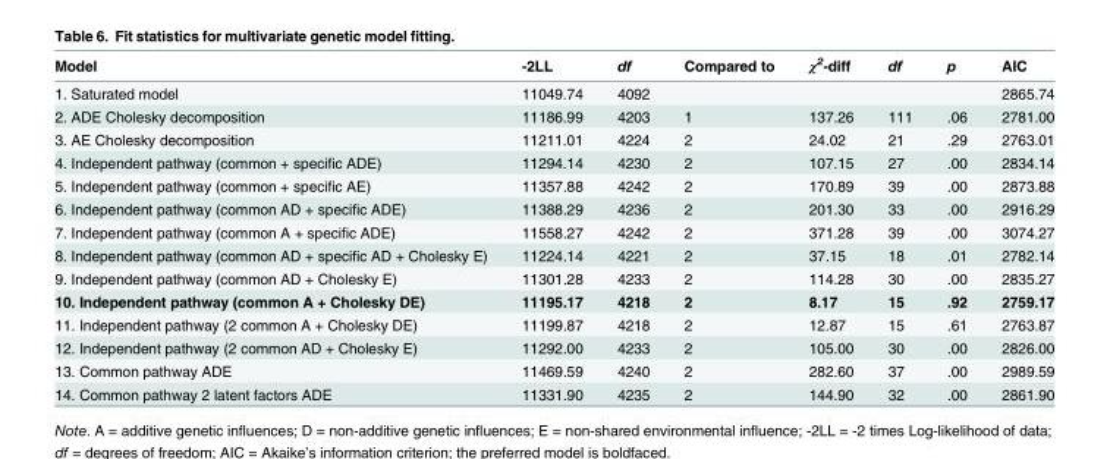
<table><thead><tr><td>Model</td><td>-2LL</td><td>df</td><td>Compared to</td><td>χ<sup>2</sup>-diff</td><td>df</td><td>p</td><td>AIC</td></tr></thead><tbody><tr><td>1. Saturated model</td><td>11049.74</td><td>4092</td><td></td><td></td><td></td><td></td><td>2865.74</td></tr><tr><td>2. ADE Cholesky decomposition</td><td>11186.99</td><td>4203</td><td>1</td><td>137.26</td><td>111</td><td>.06</td><td>2781.00</td></tr><tr><td>3. AE Cholesky decomposition</td><td>11211.01</td><td>4224</td><td>2</td><td>24.02</td><td>21</td><td>.29</td><td>2763.01</td></tr><tr><td>4. Independent pathway (common + specific ADE)</td><td>11294.14</td><td>4230</td><td>2</td><td>107.15</td><td>27</td><td>.00</td><td>2834.14</td></tr><tr><td>5. Independent pathway (common + specific AE)</td><td>11357.88</td><td>4242</td><td>2</td><td>170.89</td><td>39</td><td>.00</td><td>2873.88</td></tr><tr><td>6. Independent pathway (common AD + specific ADE)</td><td>11388.29</td><td>4236</td><td>2</td><td>201.30</td><td>33</td><td>.00</td><td>2916.29</td></tr><tr><td>7. Independent pathway (common A + specific ADE)</td><td>11558.27</td><td>4242</td><td>2</td><td>371.28</td><td>39</td><td>.00</td><td>3074.27</td></tr><tr><td>8. Independent pathway (common AD + specific AD + Cholesky E)</td><td>11224.14</td><td>4221</td><td>2</td><td>37.15</td><td>18</td><td>.01</td><td>2782.14</td></tr><tr><td>9. Independent pathway (common AD + Cholesky E)</td><td>11301.28</td><td>4233</td><td>2</td><td>114.28</td><td>30</td><td>.00</td><td>2835.27</td></tr><tr><td>10. Independent pathway (common A + Cholesky DE)</td><td>11195.17</td><td>4218</td><td>2</td><td>8.17</td><td>15</td><td>.92</td><td>2759.17</td></tr><tr><td>11. Independent pathway (2 common A + Cholesky DE)</td><td>11199.87</td><td>4218</td><td>2</td><td>12.87</td><td>15</td><td>.61</td><td>2763.87</td></tr><tr><td>12. Independent pathway (2 common AD + Cholesky E)</td><td>11292.00</td><td>4233</td><td>2</td><td>105.00</td><td>30</td><td>.00</td><td>2826.00</td></tr><tr><td>13. Common pathway ADE</td><td>11469.59</td><td>4240</td><td>2</td><td>282.60</td><td>37</td><td>.00</td><td>2989.59</td></tr><tr><td>14. Common pathway 2 latent factors ADE</td><td>11331.90</td><td>4235</td><td>2</td><td>144.90</td><td>32</td><td>.00</td><td>2861.90</td></tr></tbody></table>